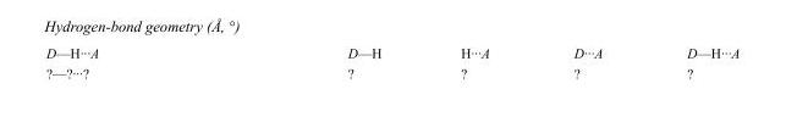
<table><tbody><tr><td>D—H···A</td><td>D—H</td><td>H···A</td><td>D···A</td><td>D—H···A</td></tr><tr><td>?—?···?</td><td>?</td><td>?</td><td>?</td><td>?</td></tr></tbody></table>